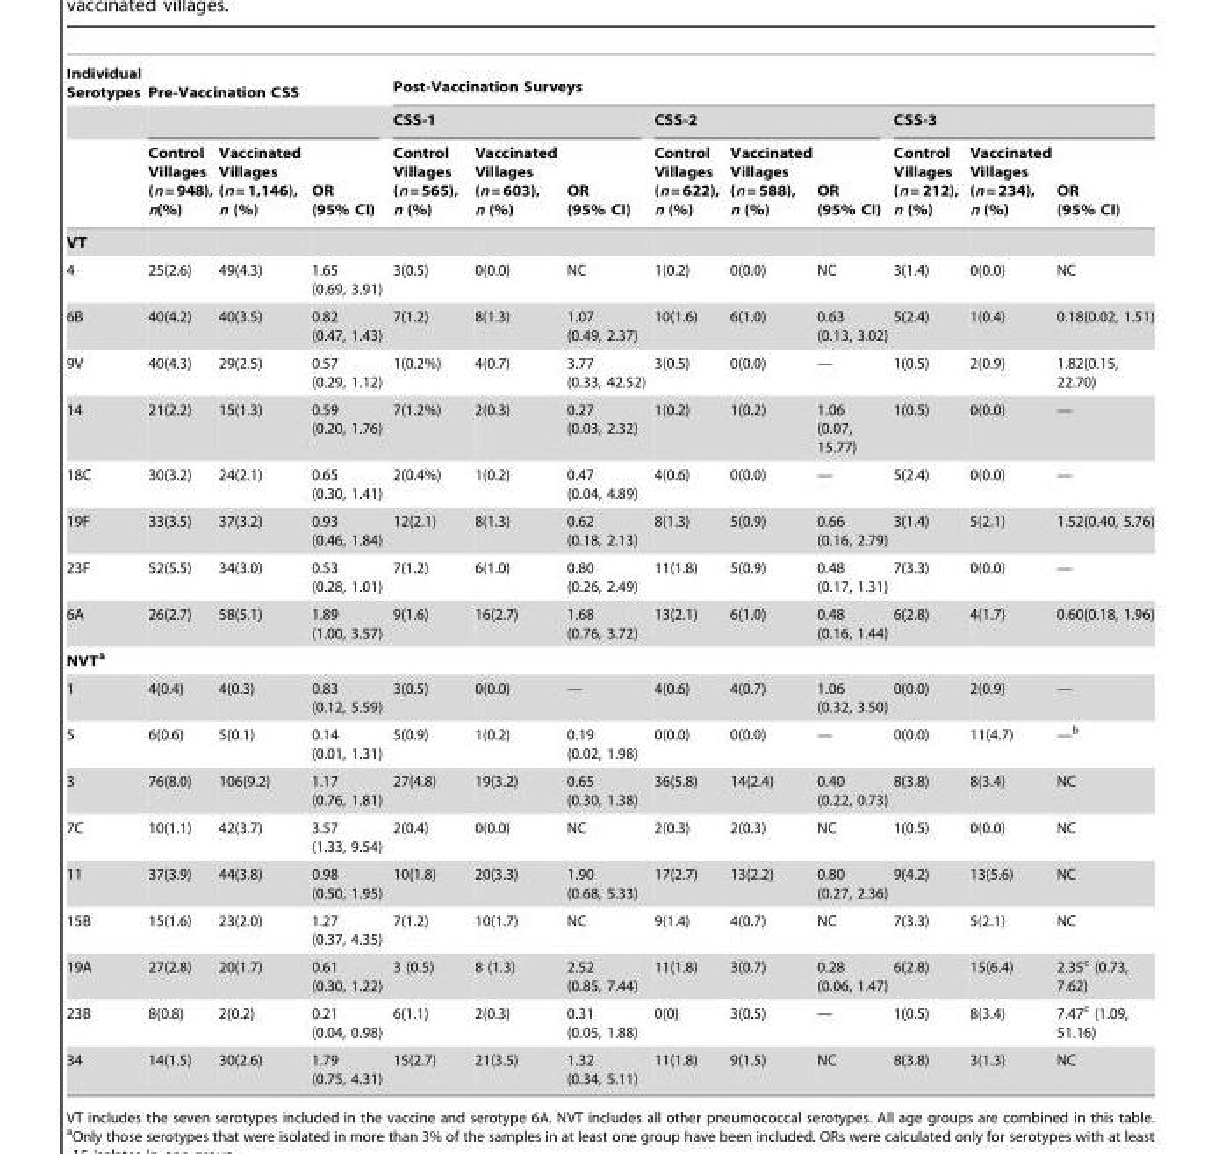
<table><thead><tr><td rowspan="3">Individual Serotypes</td><td colspan="3">Pre-Vaccination CSS</td><td colspan="9">Post-Vaccination Surveys</td></tr><tr><td rowspan="2">Control Villages (n = 948), n(%)</td><td rowspan="2">Vaccinated Villages (n = 1,146), n (%)</td><td rowspan="2">OR (95% CI)</td><td colspan="3">CSS-1</td><td colspan="3">CSS-2</td><td colspan="3">CSS-3</td></tr><tr><td>Control Villages (n = 565), n (%)</td><td>Vaccinated Villages (n = 603), n (%)</td><td>OR (95% CI)</td><td>Control Villages (n = 622), n (%)</td><td>Vaccinated Villages (n = 588), n (%)</td><td>OR (95% CI)</td><td>Control Villages (n = 212), n (%)</td><td>Vaccinated Villages (n = 234), n (%)</td><td>OR (95% CI)</td></tr></thead><tbody><tr><td colspan="13">VT</td></tr><tr><td>4</td><td>25(2.6)</td><td>49(4.3)</td><td>1.65 (0.69, 3.91)</td><td>3(0.5)</td><td>0(0.0)</td><td>NC</td><td>1(0.2)</td><td>0(0.0)</td><td>NC</td><td>3(1.4)</td><td>0(0.0)</td><td>NC</td></tr><tr><td>6B</td><td>40(4.2)</td><td>40(3.5)</td><td>0.82 (0.47, 1.43)</td><td>7(1.2)</td><td>8(1.3)</td><td>1.07 (0.49, 2.37)</td><td>10(1.6)</td><td>6(1.0)</td><td>0.63 (0.13, 3.02)</td><td>5(2.4)</td><td>1(0.4)</td><td>0.18(0.02, 1.51)</td></tr><tr><td>9V</td><td>40(4.3)</td><td>29(2.5)</td><td>0.57 (0.29, 1.12)</td><td>1(0.2%)</td><td>4(0.7)</td><td>3.77 (0.33, 42.52)</td><td>3(0.5)</td><td>0(0.0)</td><td>—</td><td>1(0.5)</td><td>2(0.9)</td><td>1.82(0.15, 22.70)</td></tr><tr><td>14</td><td>21(2.2)</td><td>15(1.3)</td><td>0.59 (0.20, 1.76)</td><td>7(1.2%)</td><td>2(0.3)</td><td>0.27 (0.03, 2.32)</td><td>1(0.2)</td><td>1(0.2)</td><td>1.06 (0.07, 15.77)</td><td>1(0.5)</td><td>0(0.0)</td><td>—</td></tr><tr><td>18C</td><td>30(3.2)</td><td>24(2.1)</td><td>0.65 (0.30, 1.41)</td><td>2(0.4%)</td><td>1(0.2)</td><td>0.47 (0.04, 4.89)</td><td>4(0.6)</td><td>0(0.0)</td><td>—</td><td>5(2.4)</td><td>0(0.0)</td><td>—</td></tr><tr><td>19F</td><td>33(3.5)</td><td>37(3.2)</td><td>0.93 (0.46, 1.84)</td><td>12(2.1)</td><td>8(1.3)</td><td>0.62 (0.18, 2.13)</td><td>8(1.3)</td><td>5(0.9)</td><td>0.66 (0.16, 2.79)</td><td>3(1.4)</td><td>5(2.1)</td><td>1.52(0.40, 5.76)</td></tr><tr><td>23F</td><td>52(5.5)</td><td>34(3.0)</td><td>0.53 (0.28, 1.01)</td><td>7(1.2)</td><td>6(1.0)</td><td>0.80 (0.26, 2.49)</td><td>11(1.8)</td><td>5(0.9)</td><td>0.48 (0.17, 1.31)</td><td>7(3.3)</td><td>0(0.0)</td><td>—</td></tr><tr><td>6A</td><td>26(2.7)</td><td>58(5.1)</td><td>1.89 (1.00, 3.57)</td><td>9(1.6)</td><td>16(2.7)</td><td>1.68 (0.76, 3.72)</td><td>13(2.1)</td><td>6(1.0)</td><td>0.48 (0.16, 1.44)</td><td>6(2.8)</td><td>4(1.7)</td><td>0.60(0.18, 1.96)</td></tr><tr><td colspan="13">NVTa</td></tr><tr><td>1</td><td>4(0.4)</td><td>4(0.3)</td><td>0.83 (0.12, 5.59)</td><td>3(0.5)</td><td>0(0.0)</td><td>—</td><td>4(0.6)</td><td>4(0.7)</td><td>1.06 (0.32, 3.50)</td><td>0(0.0)</td><td>2(0.9)</td><td>—</td></tr><tr><td>5</td><td>6(0.6)</td><td>5(0.1)</td><td>0.14 (0.01, 1.31)</td><td>5(0.9)</td><td>1(0.2)</td><td>0.19 (0.02, 1.98)</td><td>0(0.0)</td><td>0(0.0)</td><td>—</td><td>0(0.0)</td><td>11(4.7)</td><td>—b</td></tr><tr><td>3</td><td>76(8.0)</td><td>106(9.2)</td><td>1.17 (0.76, 1.81)</td><td>27(4.8)</td><td>19(3.2)</td><td>0.65 (0.30, 1.38)</td><td>36(5.8)</td><td>14(2.4)</td><td>0.40 (0.22, 0.73)</td><td>8(3.8)</td><td>8(3.4)</td><td>NC</td></tr><tr><td>7C</td><td>10(1.1)</td><td>42(3.7)</td><td>3.57 (1.33, 9.54)</td><td>2(0.4)</td><td>0(0.0)</td><td>NC</td><td>2(0.3)</td><td>2(0.3)</td><td>NC</td><td>1(0.5)</td><td>0(0.0)</td><td>NC</td></tr><tr><td>11</td><td>37(3.9)</td><td>44(3.8)</td><td>0.98 (0.50, 1.95)</td><td>10(1.8)</td><td>20(3.3)</td><td>1.90 (0.68, 5.33)</td><td>17(2.7)</td><td>13(2.2)</td><td>0.80 (0.27, 2.36)</td><td>9(4.2)</td><td>13(5.6)</td><td>NC</td></tr><tr><td>15B</td><td>15(1.6)</td><td>23(2.0)</td><td>1.27 (0.37, 4.35)</td><td>7(1.2)</td><td>10(1.7)</td><td>NC</td><td>9(1.4)</td><td>4(0.7)</td><td>NC</td><td>7(3.3)</td><td>5(2.1)</td><td>NC</td></tr><tr><td>19A</td><td>27(2.8)</td><td>20(1.7)</td><td>0.61 (0.30, 1.22)</td><td>3 (0.5)</td><td>8 (1.3)</td><td>2.52 (0.85, 7.44)</td><td>11(1.8)</td><td>3(0.7)</td><td>0.28 (0.06, 1.47)</td><td>6(2.8)</td><td>15(6.4)</td><td>2.35<sup>c</sup> (0.73, 7.62)</td></tr><tr><td>23B</td><td>8(0.8)</td><td>2(0.2)</td><td>0.21 (0.04, 0.98)</td><td>6(1.1)</td><td>2(0.3)</td><td>0.31 (0.05, 1.88)</td><td>0(0)</td><td>3(0.5)</td><td>—</td><td>1(0.5)</td><td>8(3.4)</td><td>7.47<sup>c</sup> (1.09, 51.16)</td></tr><tr><td>34</td><td>14(1.5)</td><td>30(2.6)</td><td>1.79 (0.75, 4.31)</td><td>15(2.7)</td><td>21(3.5)</td><td>1.32 (0.34, 5.11)</td><td>11(1.8)</td><td>9(1.5)</td><td>NC</td><td>8(3.8)</td><td>3(1.3)</td><td>NC</td></tr></tbody></table>